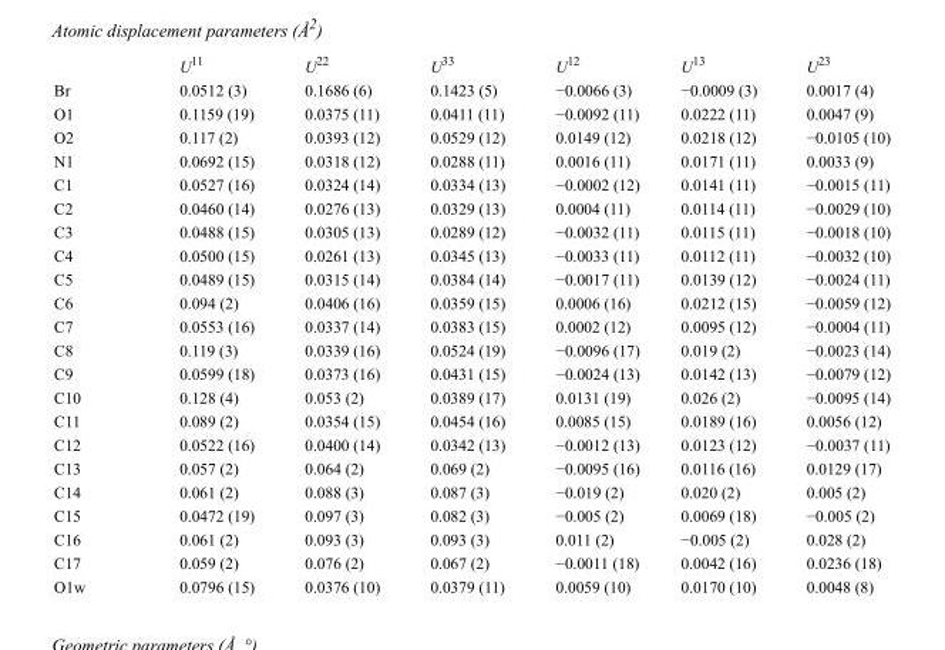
<table><thead><tr><td></td><td>U<sup>11</sup></td><td>U<sup>22</sup></td><td>U<sup>33</sup></td><td>U<sup>12</sup></td><td>U<sup>13</sup></td><td>U<sup>23</sup></td></tr></thead><tbody><tr><td>Br</td><td>0.0512 (3)</td><td>0.1686 (6)</td><td>0.1423 (5)</td><td>−0.0066 (3)</td><td>−0.0009 (3)</td><td>0.0017 (4)</td></tr><tr><td>O1</td><td>0.1159 (19)</td><td>0.0375 (11)</td><td>0.0411 (11)</td><td>−0.0092 (11)</td><td>0.0222 (11)</td><td>0.0047 (9)</td></tr><tr><td>O2</td><td>0.117 (2)</td><td>0.0393 (12)</td><td>0.0529 (12)</td><td>0.0149 (12)</td><td>0.0218 (12)</td><td>−0.0105 (10)</td></tr><tr><td>N1</td><td>0.0692 (15)</td><td>0.0318 (12)</td><td>0.0288 (11)</td><td>0.0016 (11)</td><td>0.0171 (11)</td><td>0.0033 (9)</td></tr><tr><td>C1</td><td>0.0527 (16)</td><td>0.0324 (14)</td><td>0.0334 (13)</td><td>−0.0002 (12)</td><td>0.0141 (11)</td><td>−0.0015 (11)</td></tr><tr><td>C2</td><td>0.0460 (14)</td><td>0.0276 (13)</td><td>0.0329 (13)</td><td>0.0004 (11)</td><td>0.0114 (11)</td><td>−0.0029 (10)</td></tr><tr><td>C3</td><td>0.0488 (15)</td><td>0.0305 (13)</td><td>0.0289 (12)</td><td>−0.0032 (11)</td><td>0.0115 (11)</td><td>−0.0018 (10)</td></tr><tr><td>C4</td><td>0.0500 (15)</td><td>0.0261 (13)</td><td>0.0345 (13)</td><td>−0.0033 (11)</td><td>0.0112 (11)</td><td>−0.0032 (10)</td></tr><tr><td>C5</td><td>0.0489 (15)</td><td>0.0315 (14)</td><td>0.0384 (14)</td><td>−0.0017 (11)</td><td>0.0139 (12)</td><td>−0.0024 (11)</td></tr><tr><td>C6</td><td>0.094 (2)</td><td>0.0406 (16)</td><td>0.0359 (15)</td><td>0.0006 (16)</td><td>0.0212 (15)</td><td>−0.0059 (12)</td></tr><tr><td>C7</td><td>0.0553 (16)</td><td>0.0337 (14)</td><td>0.0383 (15)</td><td>0.0002 (12)</td><td>0.0095 (12)</td><td>−0.0004 (11)</td></tr><tr><td>C8</td><td>0.119 (3)</td><td>0.0339 (16)</td><td>0.0524 (19)</td><td>−0.0096 (17)</td><td>0.019 (2)</td><td>−0.0023 (14)</td></tr><tr><td>C9</td><td>0.0599 (18)</td><td>0.0373 (16)</td><td>0.0431 (15)</td><td>−0.0024 (13)</td><td>0.0142 (13)</td><td>−0.0079 (12)</td></tr><tr><td>C10</td><td>0.128 (4)</td><td>0.053 (2)</td><td>0.0389 (17)</td><td>0.0131 (19)</td><td>0.026 (2)</td><td>−0.0095 (14)</td></tr><tr><td>C11</td><td>0.089 (2)</td><td>0.0354 (15)</td><td>0.0454 (16)</td><td>0.0085 (15)</td><td>0.0189 (16)</td><td>0.0056 (12)</td></tr><tr><td>C12</td><td>0.0522 (16)</td><td>0.0400 (14)</td><td>0.0342 (13)</td><td>−0.0012 (13)</td><td>0.0123 (12)</td><td>−0.0037 (11)</td></tr><tr><td>C13</td><td>0.057 (2)</td><td>0.064 (2)</td><td>0.069 (2)</td><td>−0.0095 (16)</td><td>0.0116 (16)</td><td>0.0129 (17)</td></tr><tr><td>C14</td><td>0.061 (2)</td><td>0.088 (3)</td><td>0.087 (3)</td><td>−0.019 (2)</td><td>0.020 (2)</td><td>0.005 (2)</td></tr><tr><td>C15</td><td>0.0472 (19)</td><td>0.097 (3)</td><td>0.082 (3)</td><td>−0.005 (2)</td><td>0.0069 (18)</td><td>−0.005 (2)</td></tr><tr><td>C16</td><td>0.061 (2)</td><td>0.093 (3)</td><td>0.093 (3)</td><td>0.011 (2)</td><td>−0.005 (2)</td><td>0.028 (2)</td></tr><tr><td>C17</td><td>0.059 (2)</td><td>0.076 (2)</td><td>0.067 (2)</td><td>−0.0011 (18)</td><td>0.0042 (16)</td><td>0.0236 (18)</td></tr><tr><td>O1w</td><td>0.0796 (15)</td><td>0.0376 (10)</td><td>0.0379 (11)</td><td>0.0059 (10)</td><td>0.0170 (10)</td><td>0.0048 (8)</td></tr></tbody></table>